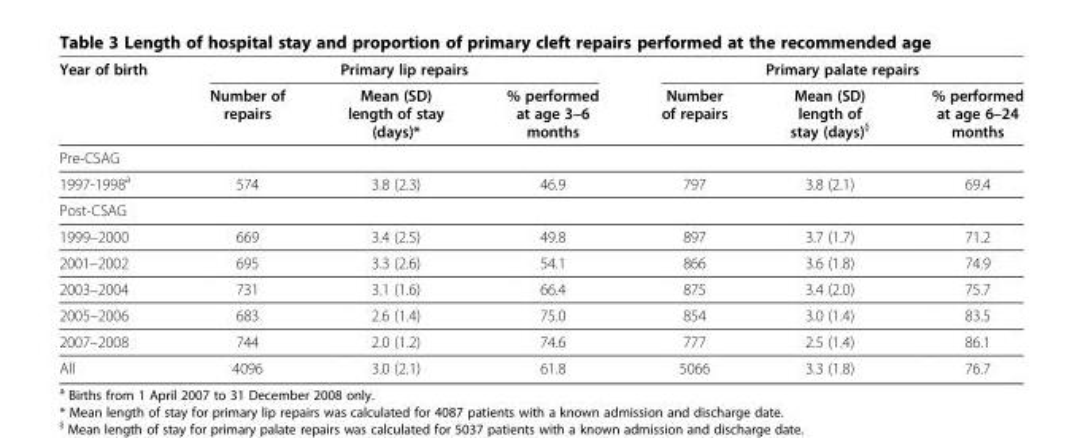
<table><thead><tr><td rowspan="2">Year of birth</td><td colspan="3">Primary lip repairs</td><td colspan="3">Primary palate repairs</td></tr><tr><td>Number of repairs</td><td>Mean (SD) length of stay (days)*</td><td>% performed at age 3–6 months</td><td>Number of repairs</td><td>Mean (SD) length of stay (days)<sup>§</sup></td><td>% performed at age 6–24 months</td></tr></thead><tbody><tr><td colspan="7">Pre-CSAG</td></tr><tr><td>1997-1998<sup>a</sup></td><td>574</td><td>3.8 (2.3)</td><td>46.9</td><td>797</td><td>3.8 (2.1)</td><td>69.4</td></tr><tr><td colspan="7">Post-CSAG</td></tr><tr><td>1999–2000</td><td>669</td><td>3.4 (2.5)</td><td>49.8</td><td>897</td><td>3.7 (1.7)</td><td>71.2</td></tr><tr><td>2001–2002</td><td>695</td><td>3.3 (2.6)</td><td>54.1</td><td>866</td><td>3.6 (1.8)</td><td>74.9</td></tr><tr><td>2003–2004</td><td>731</td><td>3.1 (1.6)</td><td>66.4</td><td>875</td><td>3.4 (2.0)</td><td>75.7</td></tr><tr><td>2005–2006</td><td>683</td><td>2.6 (1.4)</td><td>75.0</td><td>854</td><td>3.0 (1.4)</td><td>83.5</td></tr><tr><td>2007–2008</td><td>744</td><td>2.0 (1.2)</td><td>74.6</td><td>777</td><td>2.5 (1.4)</td><td>86.1</td></tr><tr><td>All</td><td>4096</td><td>3.0 (2.1)</td><td>61.8</td><td>5066</td><td>3.3 (1.8)</td><td>76.7</td></tr></tbody></table>